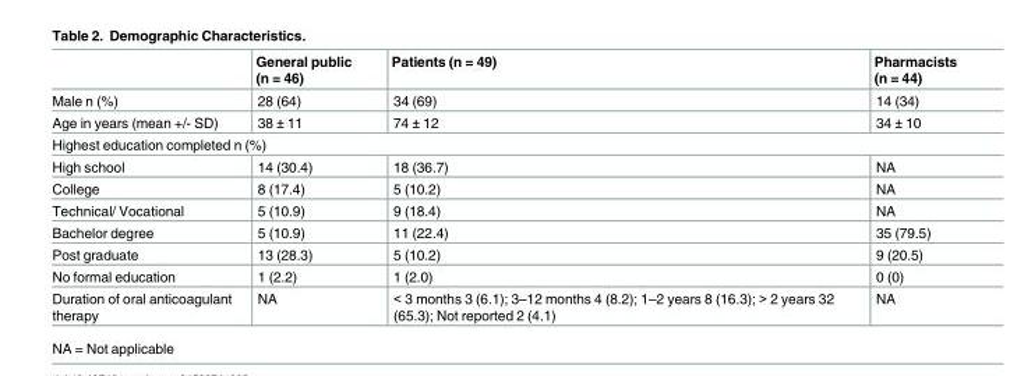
<table><thead><tr><td></td><td>General public (n = 46)</td><td>Patients (n = 49)</td><td>Pharmacists (n = 44)</td></tr></thead><tbody><tr><td>Male n (%)</td><td>28 (64)</td><td>34 (69)</td><td>14 (34)</td></tr><tr><td>Age in years (mean +/- SD)</td><td>38 ± 11</td><td>74 ± 12</td><td>34 ± 10</td></tr><tr><td colspan="4">Highest education completed n (%)</td></tr><tr><td>High school</td><td>14 (30.4)</td><td>18 (36.7)</td><td>NA</td></tr><tr><td>College</td><td>8 (17.4)</td><td>5 (10.2)</td><td>NA</td></tr><tr><td>Technical/ Vocational</td><td>5 (10.9)</td><td>9 (18.4)</td><td>NA</td></tr><tr><td>Bachelor degree</td><td>5 (10.9)</td><td>11 (22.4)</td><td>35 (79.5)</td></tr><tr><td>Post graduate</td><td>13 (28.3)</td><td>5 (10.2)</td><td>9 (20.5)</td></tr><tr><td>No formal education</td><td>1 (2.2)</td><td>1 (2.0)</td><td>0 (0)</td></tr><tr><td>Duration of oral anticoagulant therapy</td><td>NA</td><td>&lt; 3 months 3 (6.1); 3–12 months 4 (8.2); 1–2 years 8 (16.3); &gt; 2 years 32 (65.3); Not reported 2 (4.1)</td><td>NA</td></tr></tbody></table>